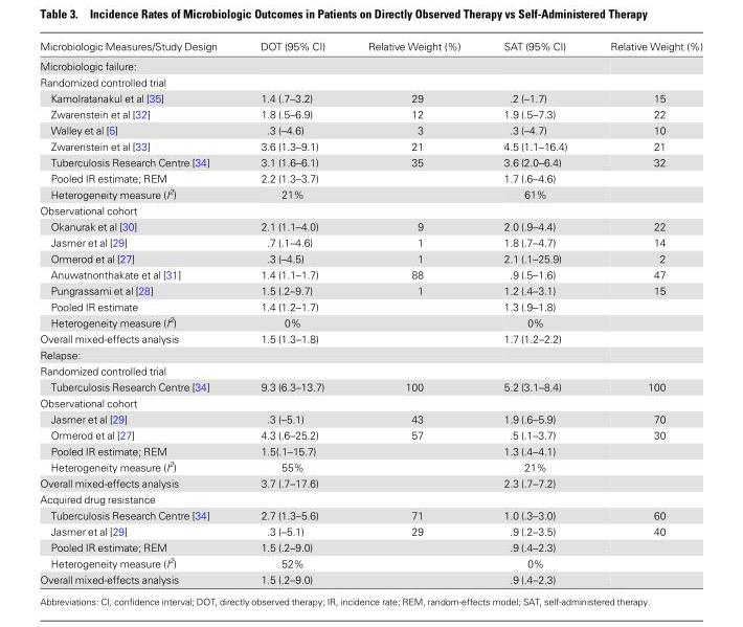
<table><thead><tr><td>Microbiologic Measures/Study Design</td><td>DOT (95% CI)</td><td>Relative Weight (%)</td><td>SAT (95% CI)</td><td>Relative Weight (%)</td></tr></thead><tbody><tr><td colspan="5">Microbiologic failure:</td></tr><tr><td colspan="5">Randomized controlled trial</td></tr><tr><td>Kamolratanakul et al [35]</td><td>1.4 (.7–3.2)</td><td>29</td><td>.2 (–1.7)</td><td>15</td></tr><tr><td>Zwarenstein et al [32]</td><td>1.8 (.5–6.9)</td><td>12</td><td>1.9 (.5–7.3)</td><td>22</td></tr><tr><td>Walley et al [5]</td><td>.3 (–4.6)</td><td>3</td><td>.3 (–4.7)</td><td>10</td></tr><tr><td>Zwarenstein et al [33]</td><td>3.6 (1.3–9.1)</td><td>21</td><td>4.5 (1.1–16.4)</td><td>21</td></tr><tr><td>Tuberculosis Research Centre [34]</td><td>3.1 (1.6–6.1)</td><td>35</td><td>3.6 (2.0–6.4)</td><td>32</td></tr><tr><td>Pooled IR estimate; REM</td><td>2.2 (1.3–3.7)</td><td></td><td>1.7 (.6–4.6)</td><td></td></tr><tr><td>Heterogeneity measure (I<sup>2</sup>)</td><td>21%</td><td></td><td>61%</td><td></td></tr><tr><td colspan="5">Observational cohort</td></tr><tr><td>Okanurak et al [30]</td><td>2.1 (1.1–4.0)</td><td>9</td><td>2.0 (.9–4.4)</td><td>22</td></tr><tr><td>Jasmer et al [29]</td><td>.7 (.1–4.6)</td><td>1</td><td>1.8 (.7–4.7)</td><td>14</td></tr><tr><td>Ormerod et al [27]</td><td>.3 (–4.5)</td><td>1</td><td>2.1 (.1–25.9)</td><td>2</td></tr><tr><td>Anuwatnonthakate et al [31]</td><td>1.4 (1.1–1.7)</td><td>88</td><td>.9 (.5–1.6)</td><td>47</td></tr><tr><td>Pungrassami et al [28]</td><td>1.5 (.2–9.7)</td><td>1</td><td>1.2 (.4–3.1)</td><td>15</td></tr><tr><td>Pooled IR estimate</td><td>1.4 (1.2–1.7)</td><td></td><td>1.3 (.9–1.8)</td><td></td></tr><tr><td>Heterogeneity measure (I<sup>2</sup>)</td><td>0%</td><td></td><td>0%</td><td></td></tr><tr><td>Overall mixed-effects analysis</td><td>1.5 (1.3–1.8)</td><td></td><td>1.7 (1.2–2.2)</td><td></td></tr><tr><td colspan="5">Relapse:</td></tr><tr><td colspan="5">Randomized controlled trial</td></tr><tr><td>Tuberculosis Research Centre [34]</td><td>9.3 (6.3–13.7)</td><td>100</td><td>5.2 (3.1–8.4)</td><td>100</td></tr><tr><td colspan="5">Observational cohort</td></tr><tr><td>Jasmer et al [29]</td><td>.3 (–5.1)</td><td>43</td><td>1.9 (.6–5.9)</td><td>70</td></tr><tr><td>Ormerod et al [27]</td><td>4.3 (.6–25.2)</td><td>57</td><td>.5 (.1–3.7)</td><td>30</td></tr><tr><td>Pooled IR estimate; REM</td><td>1.5(.1–15.7)</td><td></td><td>1.3 (.4–4.1)</td><td></td></tr><tr><td>Heterogeneity measure (I<sup>2</sup>)</td><td>55%</td><td></td><td>21%</td><td></td></tr><tr><td>Overall mixed-effects analysis</td><td>3.7 (.7–17.6)</td><td></td><td>2.3 (.7–7.2)</td><td></td></tr><tr><td colspan="5">Acquired drug resistance</td></tr><tr><td>Tuberculosis Research Centre [34]</td><td>2.7 (1.3–5.6)</td><td>71</td><td>1.0 (.3–3.0)</td><td>60</td></tr><tr><td>Jasmer et al [29]</td><td>.3 (–5.1)</td><td>29</td><td>.9 (.2–3.5)</td><td>40</td></tr><tr><td>Pooled IR estimate; REM</td><td>1.5 (.2–9.0)</td><td></td><td>.9 (.4–2.3)</td><td></td></tr><tr><td>Heterogeneity measure (I<sup>2</sup>)</td><td>52%</td><td></td><td>0%</td><td></td></tr><tr><td>Overall mixed-effects analysis</td><td>1.5 (.2–9.0)</td><td></td><td>.9 (.4–2.3)</td><td></td></tr></tbody></table>